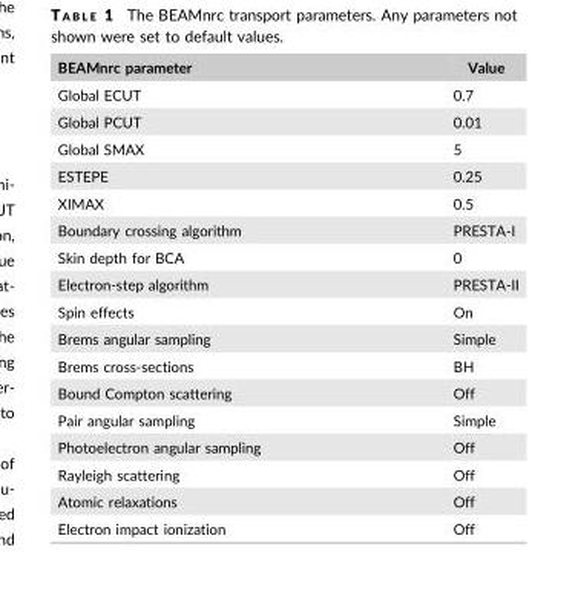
<table><thead><tr><td>BEAMnrc parameter</td><td>Value</td></tr></thead><tbody><tr><td>Global ECUT</td><td>0.7</td></tr><tr><td>Global PCUT</td><td>0.01</td></tr><tr><td>Global SMAX</td><td>5</td></tr><tr><td>ESTEPE</td><td>0.25</td></tr><tr><td>XIMAX</td><td>0.5</td></tr><tr><td>Boundary crossing algorithm</td><td>PRESTA-I</td></tr><tr><td>Skin depth for BCA</td><td>0</td></tr><tr><td>Electron-step algorithm</td><td>PRESTA-II</td></tr><tr><td>Spin effects</td><td>On</td></tr><tr><td>Brems angular sampling</td><td>Simple</td></tr><tr><td>Brems cross-sections</td><td>BH</td></tr><tr><td>Bound Compton scattering</td><td>Off</td></tr><tr><td>Pair angular sampling</td><td>Simple</td></tr><tr><td>Photoelectron angular sampling</td><td>Off</td></tr><tr><td>Rayleigh scattering</td><td>Off</td></tr><tr><td>Atomic relaxations</td><td>Off</td></tr><tr><td>Electron impact ionization</td><td>Off</td></tr></tbody></table>